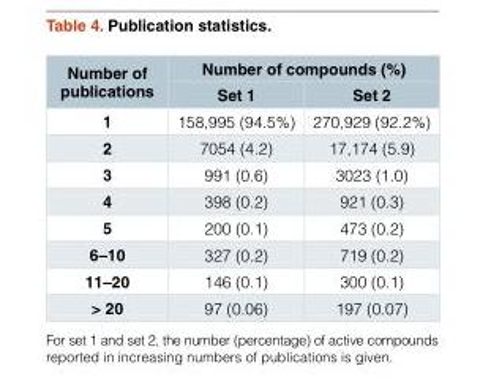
<table><thead><tr><td rowspan="2">Number of publications</td><td colspan="2">Number of compounds (%)</td></tr><tr><td>Set 1</td><td>Set 2</td></tr></thead><tbody><tr><td>1</td><td>158,995 (94.5%)</td><td>270,929 (92.2%)</td></tr><tr><td>2</td><td>7054 (4.2)</td><td>17,174 (5.9)</td></tr><tr><td>3</td><td>991 (0.6)</td><td>3023 (1.0)</td></tr><tr><td>4</td><td>398 (0.2)</td><td>921 (0.3)</td></tr><tr><td>5</td><td>200 (0.1)</td><td>473 (0.2)</td></tr><tr><td>6–10</td><td>327 (0.2)</td><td>719 (0.2)</td></tr><tr><td>11–20</td><td>146 (0.1)</td><td>300 (0.1)</td></tr><tr><td>&gt; 20</td><td>97 (0.06)</td><td>197 (0.07)</td></tr></tbody></table>